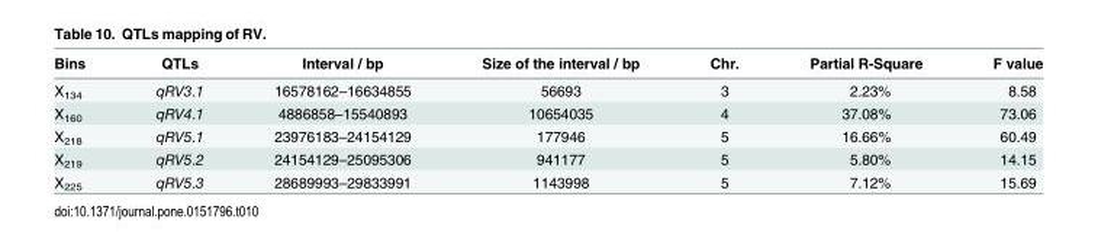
<table><thead><tr><td>Bins</td><td>QTLs</td><td>Interval / bp</td><td>Size of the interval / bp</td><td>Chr.</td><td>Partial R-Square</td><td>F value</td></tr></thead><tbody><tr><td>X<sub>134</sub></td><td>qRV3.1</td><td>16578162–16634855</td><td>56693</td><td>3</td><td>2.23%</td><td>8.58</td></tr><tr><td>X<sub>160</sub></td><td>qRV4.1</td><td>4886858–15540893</td><td>10654035</td><td>4</td><td>37.08%</td><td>73.06</td></tr><tr><td>X<sub>218</sub></td><td>qRV5.1</td><td>23976183–24154129</td><td>177946</td><td>5</td><td>16.66%</td><td>60.49</td></tr><tr><td>X<sub>219</sub></td><td>qRV5.2</td><td>24154129–25095306</td><td>941177</td><td>5</td><td>5.80%</td><td>14.15</td></tr><tr><td>X<sub>225</sub></td><td>qRV5.3</td><td>28689993–29833991</td><td>1143998</td><td>5</td><td>7.12%</td><td>15.69</td></tr></tbody></table>